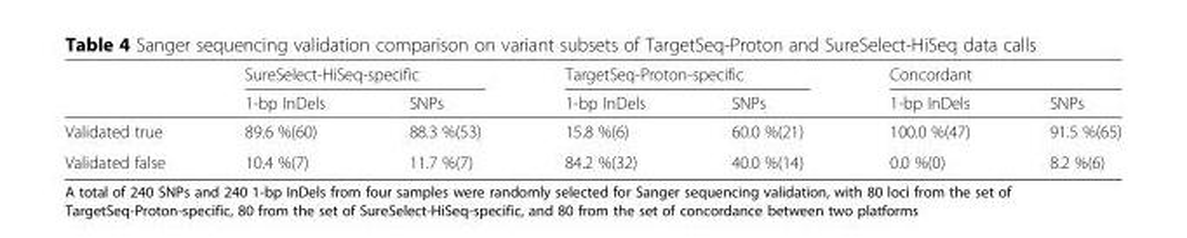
<table><thead><tr><td rowspan="2"></td><td colspan="2">SureSelect-HiSeq-specific</td><td colspan="2">TargetSeq-Proton-specific</td><td colspan="2">Concordant</td></tr><tr><td>1-bp InDels</td><td>SNPs</td><td>1-bp InDels</td><td>SNPs</td><td>1-bp InDels</td><td>SNPs</td></tr></thead><tbody><tr><td>Validated true</td><td>89.6 %(60)</td><td>88.3 %(53)</td><td>15.8 %(6)</td><td>60.0 %(21)</td><td>100.0 %(47)</td><td>91.5 %(65)</td></tr><tr><td>Validated false</td><td>10.4 %(7)</td><td>11.7 %(7)</td><td>84.2 %(32)</td><td>40.0 %(14)</td><td>0.0 %(0)</td><td>8.2 %(6)</td></tr></tbody></table>